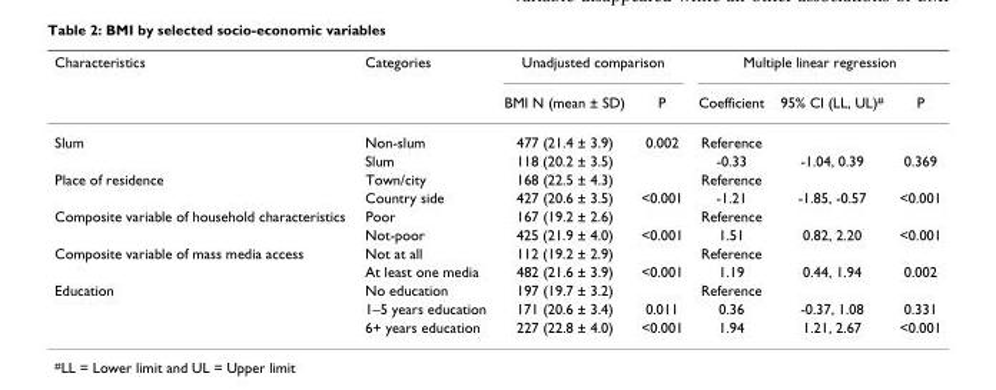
<table><thead><tr><td rowspan="2">Characteristics</td><td rowspan="2">Categories</td><td colspan="2">Unadjusted comparison</td><td colspan="3">Multiple linear regression</td></tr><tr><td>BMI N (mean ± SD)</td><td>P</td><td>Coefficient</td><td>95% CI (LL, UL)<sup>#</sup></td><td>P</td></tr></thead><tbody><tr><td rowspan="2">Slum</td><td>Non-slum</td><td>477 (21.4 ± 3.9)</td><td>0.002</td><td>Reference</td><td></td><td></td></tr><tr><td>Slum</td><td>118 (20.2 ± 3.5)</td><td></td><td>-0.33</td><td>-1.04, 0.39</td><td>0.369</td></tr><tr><td rowspan="2">Place of residence</td><td>Town/city</td><td>168 (22.5 ± 4.3)</td><td></td><td>Reference</td><td></td><td></td></tr><tr><td>Country side</td><td>427 (20.6 ± 3.5)</td><td>&lt;0.001</td><td>-1.21</td><td>-1.85, -0.57</td><td>&lt;0.001</td></tr><tr><td rowspan="2">Composite variable of household characteristics</td><td>Poor</td><td>167 (19.2 ± 2.6)</td><td></td><td>Reference</td><td></td><td></td></tr><tr><td>Not-poor</td><td>425 (21.9 ± 4.0)</td><td>&lt;0.001</td><td>1.51</td><td>0.82, 2.20</td><td>&lt;0.001</td></tr><tr><td rowspan="2">Composite variable of mass media access</td><td>Not at all</td><td>112 (19.2 ± 2.9)</td><td></td><td>Reference</td><td></td><td></td></tr><tr><td>At least one media</td><td>482 (21.6 ± 3.9)</td><td>&lt;0.001</td><td>1.19</td><td>0.44, 1.94</td><td>0.002</td></tr><tr><td rowspan="3">Education</td><td>No education</td><td>197 (19.7 ± 3.2)</td><td></td><td>Reference</td><td></td><td></td></tr><tr><td>1–5 years education</td><td>171 (20.6 ± 3.4)</td><td>0.011</td><td>0.36</td><td>-0.37, 1.08</td><td>0.331</td></tr><tr><td>6+ years education</td><td>227 (22.8 ± 4.0)</td><td>&lt;0.001</td><td>1.94</td><td>1.21, 2.67</td><td>&lt;0.001</td></tr></tbody></table>